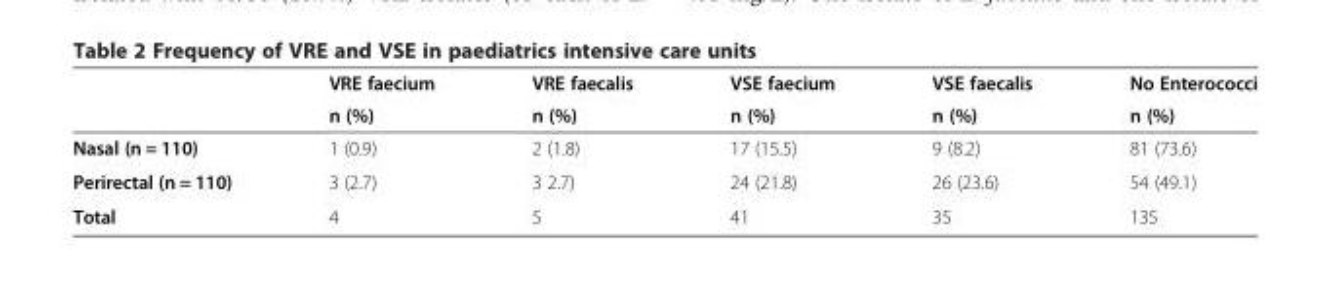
<table><thead><tr><td rowspan="2"></td><td rowspan="2">VRE faecium n (%)</td><td rowspan="2">VRE faecalis n (%)</td><td rowspan="2">VSE faecium n (%)</td><td rowspan="2">VSE faecalis n (%)</td><td rowspan="2">No Enterococci n (%)</td></tr><tr></tr></thead><tbody><tr><td>Nasal (n = 110)</td><td>1 (0.9)</td><td>2 (1.8)</td><td>17 (15.5)</td><td>9 (8.2)</td><td>81 (73.6)</td></tr><tr><td>Perirectal (n = 110)</td><td>3 (2.7)</td><td>3 2.7)</td><td>24 (21.8)</td><td>26 (23.6)</td><td>54 (49.1)</td></tr><tr><td>Total</td><td>4</td><td>5</td><td>41</td><td>35</td><td>135</td></tr></tbody></table>